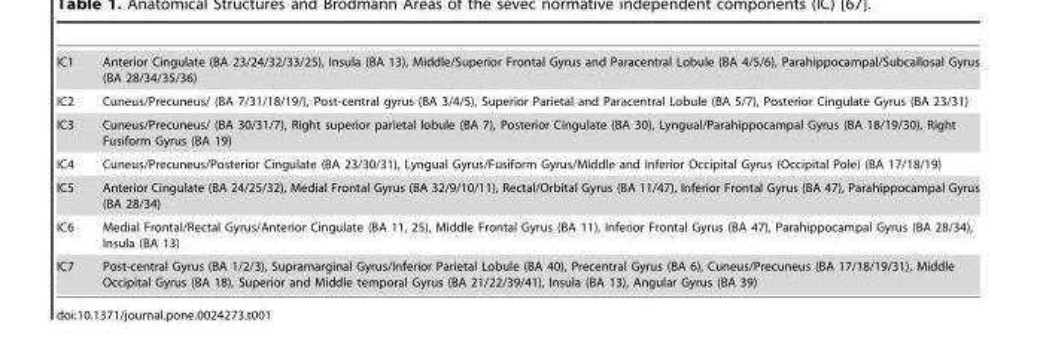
<table><tbody><tr><td>IC1</td><td>Anterior Cingulate (BA 23/24/32/33/25), Insula (BA 13), Middle/Superior Frontal Gyrus and Paracentral Lobule (BA 4/5/6), Parahippocampal/Subcallosal Gyrus (BA 28/34/35/36)</td></tr><tr><td>IC2</td><td>Cuneus/Precuneus/ (BA 7/31/18/19/), Post-central gyrus (BA 3/4/5), Superior Parietal and Paracentral Lobule (BA 5/7), Posterior Cingulate Gyrus (BA 23/31)</td></tr><tr><td>IC3</td><td>Cuneus/Precuneus/ (BA 30/31/7), Right superior parietal lobule (BA 7), Posterior Cingulate (BA 30), Lyngual/Parahippocampal Gyrus (BA 18/19/30), Right Fusiform Gyrus (BA 19)</td></tr><tr><td>IC4</td><td>Cuneus/Precuneus/Posterior Cingulate (BA 23/30/31), Lyngual Gyrus/Fusiform Gyrus/Middle and Inferior Occipital Gyrus (Occipital Pole) (BA 17/18/19)</td></tr><tr><td>IC5</td><td>Anterior Cingulate (BA 24/25/32), Medial Frontal Gyrus (BA 32/9/10/11), Rectal/Orbital Gyrus (BA 11/47), Inferior Frontal Gyrus (BA 47), Parahippocampal Gyrus (BA 28/34)</td></tr><tr><td>IC6</td><td>Medial Frontal/Rectal Gyrus/Anterior Cingulate (BA 11, 25), Middle Frontal Gyrus (BA 11), Inferior Frontal Gyrus (BA 47), Parahippocampal Gyrus (BA 28/34), Insula (BA 13)</td></tr><tr><td>IC7</td><td>Post-central Gyrus (BA 1/2/3), Supramarginal Gyrus/Inferior Parietal Lobule (BA 40), Precentral Gyrus (BA 6), Cuneus/Precuneus (BA 17/18/19/31), Middle Occipital Gyrus (BA 18), Superior and Middle temporal Gyrus (BA 21/22/39/41), Insula (BA 13), Angular Gyrus (BA 39)</td></tr></tbody></table>